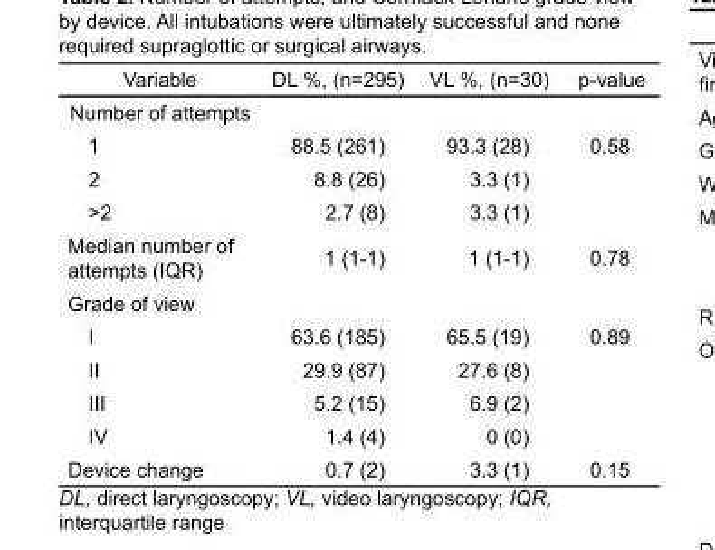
<table><thead><tr><td>Variable</td><td>DL %, (n=295)</td><td>VL %, (n=30)</td><td>p-value</td></tr></thead><tbody><tr><td colspan="4">Number of attempts</td></tr><tr><td>1</td><td>88.5 (261)</td><td>93.3 (28)</td><td>0.58</td></tr><tr><td>2</td><td>8.8 (26)</td><td>3.3 (1)</td><td></td></tr><tr><td>&gt;2</td><td>2.7 (8)</td><td>3.3 (1)</td><td></td></tr><tr><td>Median number of attempts (IQR)</td><td>1 (1-1)</td><td>1 (1-1)</td><td>0.78</td></tr><tr><td colspan="4">Grade of view</td></tr><tr><td>I</td><td>63.6 (185)</td><td>65.5 (19)</td><td>0.89</td></tr><tr><td>II</td><td>29.9 (87)</td><td>27.6 (8)</td><td></td></tr><tr><td>III</td><td>5.2 (15)</td><td>6.9 (2)</td><td></td></tr><tr><td>IV</td><td>1.4 (4)</td><td>0 (0)</td><td></td></tr><tr><td>Device change</td><td>0.7 (2)</td><td>3.3 (1)</td><td>0.15</td></tr></tbody></table>